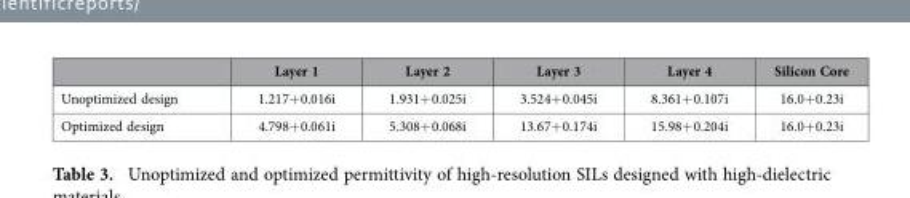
<table><thead><tr><td></td><td>Layer 1</td><td>Layer 2</td><td>Layer 3</td><td>Layer 4</td><td>Silicon Core</td></tr></thead><tbody><tr><td>Unoptimized design</td><td>1.217+ 0.016i</td><td>1.931+ 0.025i</td><td>3.524+ 0.045i</td><td>8.361+ 0.107i</td><td>16.0+ 0.23i</td></tr><tr><td>Optimized design</td><td>4.798+ 0.061i</td><td>5.308+ 0.068i</td><td>13.67+ 0.174i</td><td>15.98+ 0.204i</td><td>16.0+ 0.23i</td></tr></tbody></table>